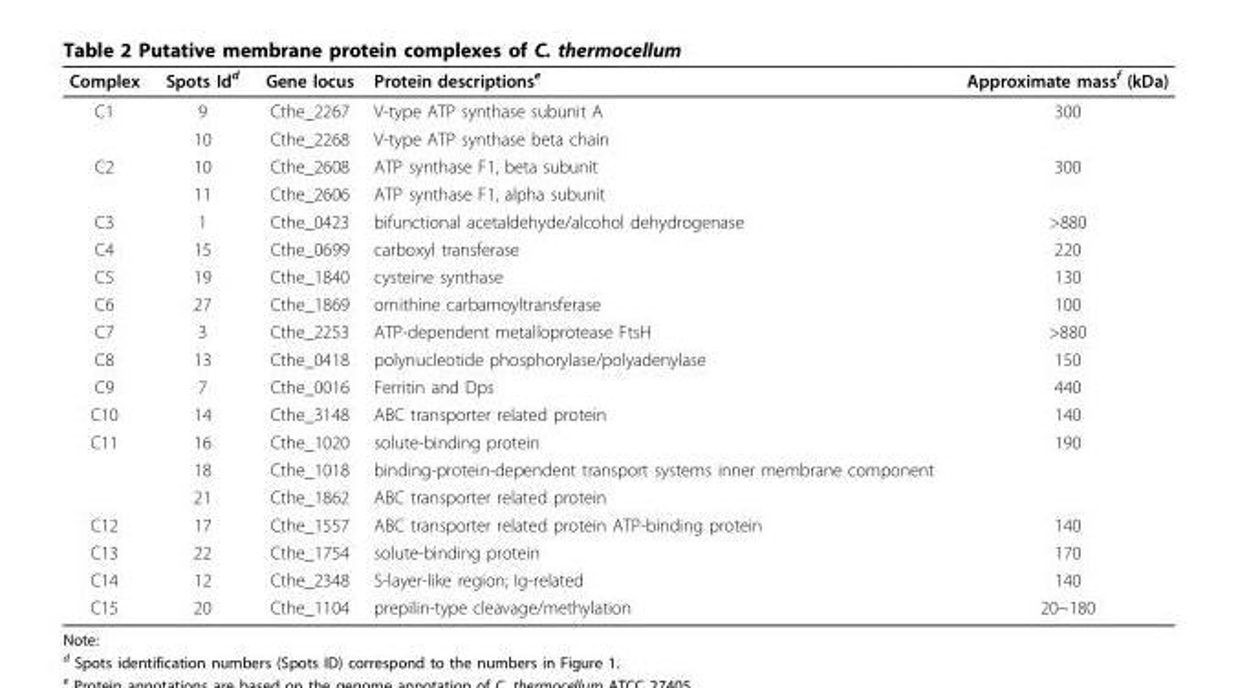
<table><thead><tr><td>Complex</td><td>Spots Id<sup>d</sup></td><td>Gene locus</td><td>Protein descriptions<sup>e</sup></td><td>Approximate mass<sup>f</sup> (kDa)</td></tr></thead><tbody><tr><td rowspan="2">C1</td><td>9</td><td>Cthe_2267</td><td>V-type ATP synthase subunit A</td><td>300</td></tr><tr><td>10</td><td>Cthe_2268</td><td>V-type ATP synthase beta chain</td><td></td></tr><tr><td rowspan="2">C2</td><td>10</td><td>Cthe_2608</td><td>ATP synthase F1, beta subunit</td><td>300</td></tr><tr><td>11</td><td>Cthe_2606</td><td>ATP synthase F1, alpha subunit</td><td></td></tr><tr><td>C3</td><td>1</td><td>Cthe_0423</td><td>bifunctional acetaldehyde/alcohol dehydrogenase</td><td>&gt;880</td></tr><tr><td>C4</td><td>15</td><td>Cthe_0699</td><td>carboxyl transferase</td><td>220</td></tr><tr><td>C5</td><td>19</td><td>Cthe_1840</td><td>cysteine synthase</td><td>130</td></tr><tr><td>C6</td><td>27</td><td>Cthe_1869</td><td>ornithine carbamoyltransferase</td><td>100</td></tr><tr><td>C7</td><td>3</td><td>Cthe_2253</td><td>ATP-dependent metalloprotease FtsH</td><td>&gt;880</td></tr><tr><td>C8</td><td>13</td><td>Cthe_0418</td><td>polynucleotide phosphorylase/polyadenylase</td><td>150</td></tr><tr><td>C9</td><td>7</td><td>Cthe_0016</td><td>Ferritin and Dps</td><td>440</td></tr><tr><td>C10</td><td>14</td><td>Cthe_3148</td><td>ABC transporter related protein</td><td>140</td></tr><tr><td rowspan="3">C11</td><td>16</td><td>Cthe_1020</td><td>solute-binding protein</td><td>190</td></tr><tr><td>18</td><td>Cthe_1018</td><td>binding-protein-dependent transport systems inner membrane component</td><td></td></tr><tr><td>21</td><td>Cthe_1862</td><td>ABC transporter related protein</td><td></td></tr><tr><td>C12</td><td>17</td><td>Cthe_1557</td><td>ABC transporter related protein ATP-binding protein</td><td>140</td></tr><tr><td>C13</td><td>22</td><td>Cthe_1754</td><td>solute-binding protein</td><td>170</td></tr><tr><td>C14</td><td>12</td><td>Cthe_2348</td><td>S-layer-like region; Ig-related</td><td>140</td></tr><tr><td>C15</td><td>20</td><td>Cthe_1104</td><td>prepilin-type cleavage/methylation</td><td>20~180</td></tr></tbody></table>